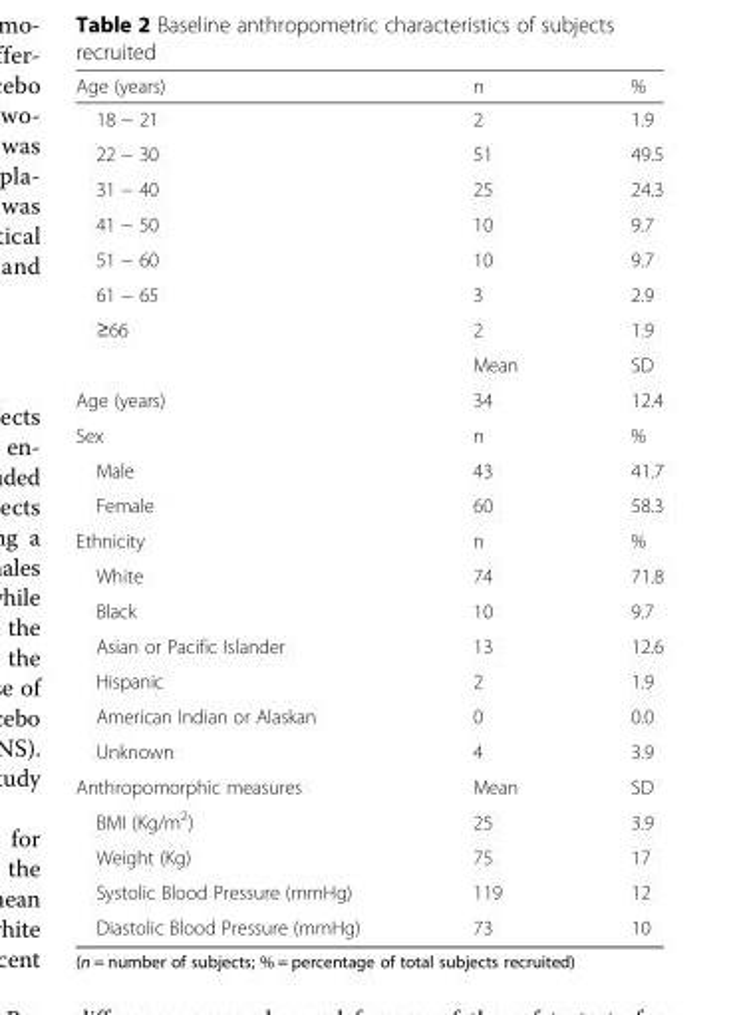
<table><thead><tr><td>Age (years)</td><td>n</td><td>%</td></tr></thead><tbody><tr><td>18 − 21</td><td>2</td><td>1.9</td></tr><tr><td>22 − 30</td><td>51</td><td>49.5</td></tr><tr><td>31 − 40</td><td>25</td><td>24.3</td></tr><tr><td>41 − 50</td><td>10</td><td>9.7</td></tr><tr><td>51 − 60</td><td>10</td><td>9.7</td></tr><tr><td>61 − 65</td><td>3</td><td>2.9</td></tr><tr><td rowspan="2">≥66</td><td>2</td><td>1.9</td></tr><tr><td>Mean</td><td>SD</td></tr><tr><td>Age (years)</td><td>34</td><td>12.4</td></tr><tr><td>Sex</td><td>n</td><td>%</td></tr><tr><td>Male</td><td>43</td><td>41.7</td></tr><tr><td>Female</td><td>60</td><td>58.3</td></tr><tr><td>Ethnicity</td><td>n</td><td>%</td></tr><tr><td>White</td><td>74</td><td>71.8</td></tr><tr><td>Black</td><td>10</td><td>9.7</td></tr><tr><td>Asian or Pacific Islander</td><td>13</td><td>12.6</td></tr><tr><td>Hispanic</td><td>2</td><td>1.9</td></tr><tr><td>American Indian or Alaskan</td><td>0</td><td>0.0</td></tr><tr><td>Unknown</td><td>4</td><td>3.9</td></tr><tr><td>Anthropomorphic measures</td><td>Mean</td><td>SD</td></tr><tr><td>BMI (Kg/m<sup>2</sup>)</td><td>25</td><td>3.9</td></tr><tr><td>Weight (Kg)</td><td>75</td><td>17</td></tr><tr><td>Systolic Blood Pressure (mmHg)</td><td>119</td><td>12</td></tr><tr><td>Diastolic Blood Pressure (mmHg)</td><td>73</td><td>10</td></tr></tbody></table>